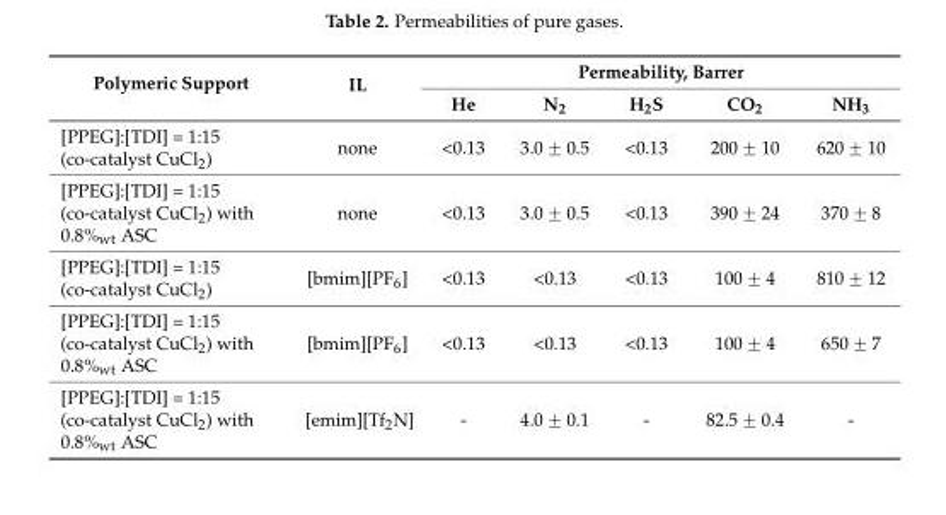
<table><thead><tr><td rowspan="2">Polymeric Support</td><td rowspan="2">IL</td><td colspan="5">Permeability, Barrer</td></tr><tr><td>He</td><td>N<sub>2</sub></td><td>H<sub>2</sub>S</td><td>CO<sub>2</sub></td><td>NH<sub>3</sub></td></tr></thead><tbody><tr><td>[PPEG]:[TDI] = 1:15 (co-catalyst CuCl<sub>2</sub>)</td><td>none</td><td>&lt;0.13</td><td>3.0 ˘ 0.5</td><td>&lt;0.13</td><td>200 ˘ 10</td><td>620 ˘ 10</td></tr><tr><td>[PPEG]:[TDI] = 1:15 (co-catalyst CuCl<sub>2</sub>) with 0.8%<sub>wt</sub> ASC</td><td>none</td><td>&lt;0.13</td><td>3.0 ˘ 0.5</td><td>&lt;0.13</td><td>390 ˘ 24</td><td>370 ˘ 8</td></tr><tr><td>[PPEG]:[TDI] = 1:15 (co-catalyst CuCl<sub>2</sub>)</td><td>[bmim][PF<sub>6</sub>]</td><td>&lt;0.13</td><td>&lt;0.13</td><td>&lt;0.13</td><td>100 ˘ 4</td><td>810 ˘ 12</td></tr><tr><td>[PPEG]:[TDI] = 1:15 (co-catalyst CuCl<sub>2</sub>) with 0.8%<sub>wt</sub> ASC</td><td>[bmim][PF<sub>6</sub>]</td><td>&lt;0.13</td><td>&lt;0.13</td><td>&lt;0.13</td><td>100 ˘ 4</td><td>650 ˘ 7</td></tr><tr><td>[PPEG]:[TDI] = 1:15 (co-catalyst CuCl<sub>2</sub>) with 0.8%<sub>wt</sub> ASC</td><td>[emim][Tf<sub>2</sub>N]</td><td>-</td><td>4.0 ˘ 0.1</td><td>-</td><td>82.5 ˘ 0.4</td><td>-</td></tr></tbody></table>